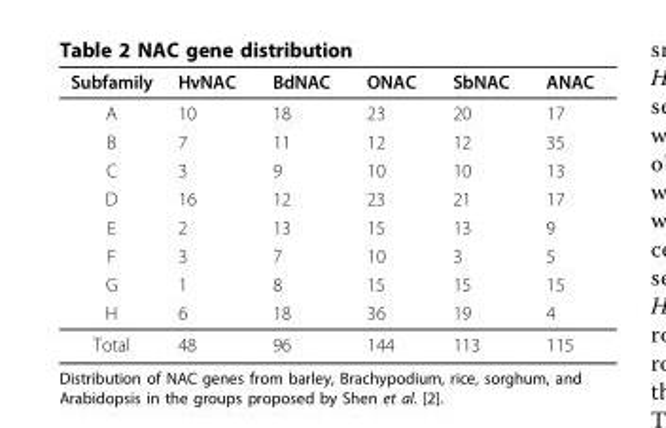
<table><thead><tr><td>Subfamily</td><td>HvNAC</td><td>BdNAC</td><td>ONAC</td><td>SbNAC</td><td>ANAC</td></tr></thead><tbody><tr><td>A</td><td>10</td><td>18</td><td>23</td><td>20</td><td>17</td></tr><tr><td>B</td><td>7</td><td>11</td><td>12</td><td>12</td><td>35</td></tr><tr><td>C</td><td>3</td><td>9</td><td>10</td><td>10</td><td>13</td></tr><tr><td>D</td><td>16</td><td>12</td><td>23</td><td>21</td><td>17</td></tr><tr><td>E</td><td>2</td><td>13</td><td>15</td><td>13</td><td>9</td></tr><tr><td>F</td><td>3</td><td>7</td><td>10</td><td>3</td><td>5</td></tr><tr><td>G</td><td>1</td><td>8</td><td>15</td><td>15</td><td>15</td></tr><tr><td>H</td><td>6</td><td>18</td><td>36</td><td>19</td><td>4</td></tr><tr><td>Total</td><td>48</td><td>96</td><td>144</td><td>113</td><td>115</td></tr></tbody></table>